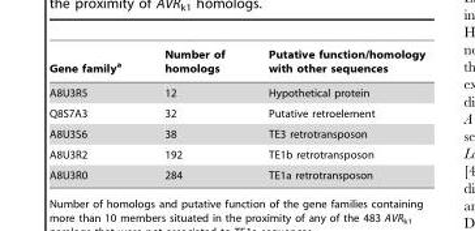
<table><thead><tr><td>Gene family<sup>a</sup></td><td>Number of homologs</td><td>Putative function/homology with other sequences</td></tr></thead><tbody><tr><td>A8U3R5</td><td>12</td><td>Hypothetical protein</td></tr><tr><td>Q8S7A3</td><td>32</td><td>Putative retroelement</td></tr><tr><td>A8U3S6</td><td>38</td><td>TE3 retrotransposon</td></tr><tr><td>A8U3R2</td><td>192</td><td>TE1b retrotransposon</td></tr><tr><td>A8U3R0</td><td>284</td><td>TE1a retrotransposon</td></tr></tbody></table>